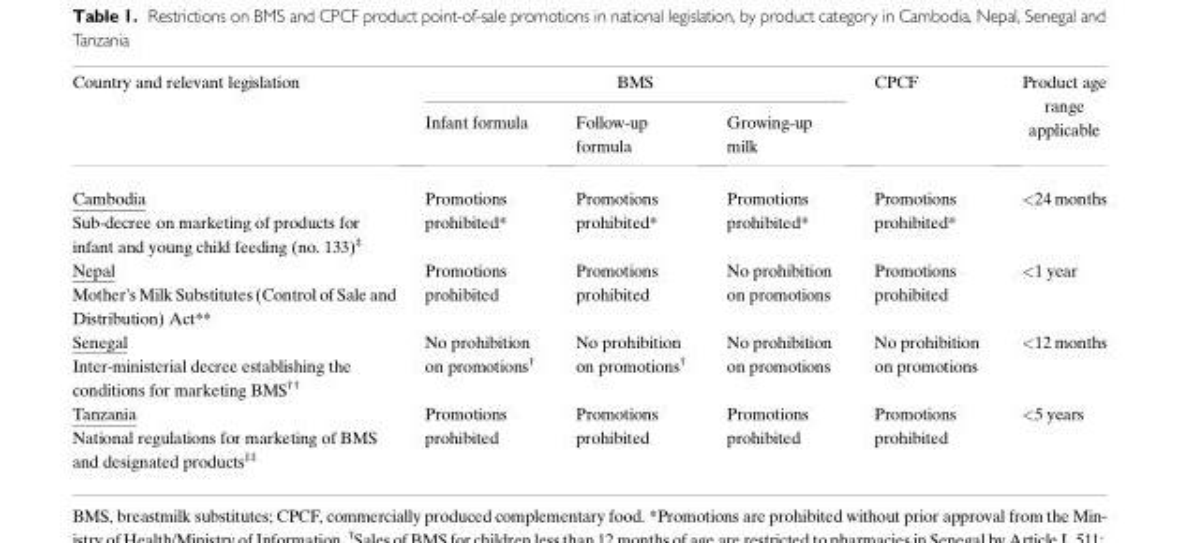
<table><thead><tr><td rowspan="2">Country and relevant legislation</td><td colspan="3">BMS</td><td rowspan="2">CPCF</td><td rowspan="2">Product age range applicable</td></tr><tr><td>Infant formula</td><td>Follow-up formula</td><td>Growing-up milk</td></tr></thead><tbody><tr><td>Cambodia</td><td rowspan="2">Promotions prohibited*</td><td rowspan="2">Promotions prohibited*</td><td rowspan="2">Promotions prohibited*</td><td rowspan="2">Promotions prohibited*</td><td rowspan="2">&lt;24 months</td></tr><tr><td>Sub-decree on marketing of products for infant and young child feeding (no. 133)‡</td></tr><tr><td>Nepal</td><td rowspan="2">Promotions prohibited</td><td rowspan="2">Promotions prohibited</td><td rowspan="2">No prohibition on promotions</td><td rowspan="2">Promotions prohibited</td><td rowspan="2">&lt;1 year</td></tr><tr><td>Mother’s Milk Substitutes (Control of Sale and Distribution) Act**</td></tr><tr><td>Senegal</td><td rowspan="2">No prohibition on promotions†</td><td rowspan="2">No prohibition on promotions†</td><td rowspan="2">No prohibition on promotions</td><td rowspan="2">No prohibition on promotions</td><td rowspan="2">&lt;12 months</td></tr><tr><td>Inter-ministerial decree establishing the conditions for marketing BMS††</td></tr><tr><td>Tanzania</td><td rowspan="2">Promotions prohibited</td><td rowspan="2">Promotions prohibited</td><td rowspan="2">Promotions prohibited</td><td rowspan="2">Promotions prohibited</td><td rowspan="2">&lt;5 years</td></tr><tr><td>National regulations for marketing of BMS and designated products‡‡</td></tr></tbody></table>